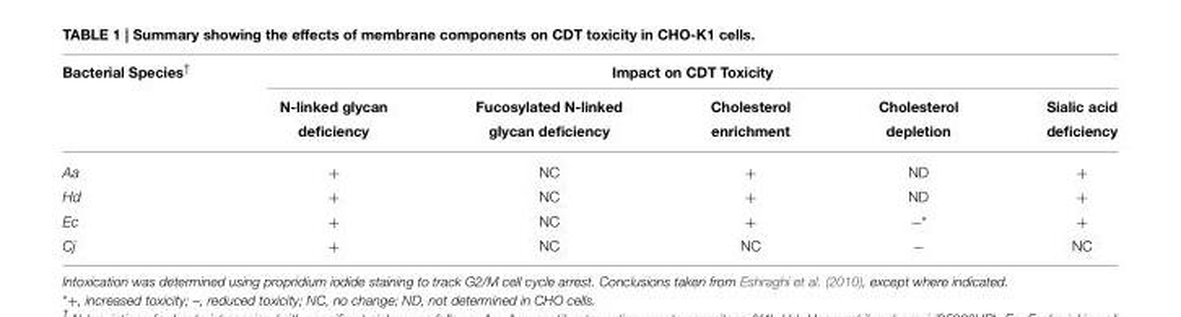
<table><thead><tr><td rowspan="2">Bacterial Species<sup>†</sup></td><td colspan="5">Impact on CDT Toxicity</td></tr><tr><td>N-linked glycan deficiency</td><td>Fucosylated N-linked glycan deficiency</td><td>Cholesterol enrichment</td><td>Cholesterol depletion</td><td>Sialic acid deficiency</td></tr></thead><tbody><tr><td>Aa</td><td>+</td><td>NC</td><td>+</td><td>ND</td><td>+</td></tr><tr><td>Hd</td><td>+</td><td>NC</td><td>+</td><td>ND</td><td>+</td></tr><tr><td>Ec</td><td>+</td><td>NC</td><td>+</td><td>−*</td><td>+</td></tr><tr><td>Cj</td><td>+</td><td>NC</td><td>NC</td><td>−</td><td>NC</td></tr></tbody></table>